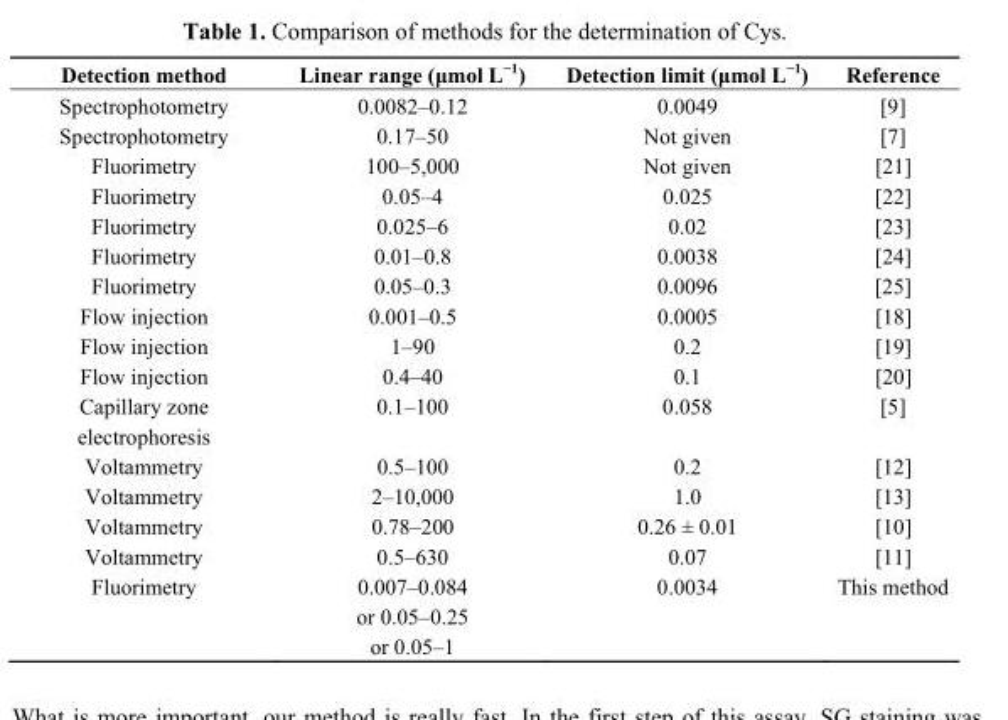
<table><thead><tr><td>Detection method</td><td>Linear range (μmol L<sup>−1</sup>)</td><td>Detection limit (μmol L<sup>−1</sup>)</td><td>Reference</td></tr></thead><tbody><tr><td>Spectrophotometry</td><td>0.0082–0.12</td><td>0.0049</td><td>[9]</td></tr><tr><td>Spectrophotometry</td><td>0.17–50</td><td>Not given</td><td>[7]</td></tr><tr><td>Fluorimetry</td><td>100–5,000</td><td>Not given</td><td>[21]</td></tr><tr><td>Fluorimetry</td><td>0.05–4</td><td>0.025</td><td>[22]</td></tr><tr><td>Fluorimetry</td><td>0.025–6</td><td>0.02</td><td>[23]</td></tr><tr><td>Fluorimetry</td><td>0.01–0.8</td><td>0.0038</td><td>[24]</td></tr><tr><td>Fluorimetry</td><td>0.05–0.3</td><td>0.0096</td><td>[25]</td></tr><tr><td>Flow injection</td><td>0.001–0.5</td><td>0.0005</td><td>[18]</td></tr><tr><td>Flow injection</td><td>1–90</td><td>0.2</td><td>[19]</td></tr><tr><td>Flow injection</td><td>0.4–40</td><td>0.1</td><td>[20]</td></tr><tr><td>Capillary zone electrophoresis</td><td>0.1–100</td><td>0.058</td><td>[5]</td></tr><tr><td>Voltammetry</td><td>0.5–100</td><td>0.2</td><td>[12]</td></tr><tr><td>Voltammetry</td><td>2–10,000</td><td>1.0</td><td>[13]</td></tr><tr><td>Voltammetry</td><td>0.78–200</td><td>0.26 ± 0.01</td><td>[10]</td></tr><tr><td>Voltammetry</td><td>0.5–630</td><td>0.07</td><td>[11]</td></tr><tr><td>Fluorimetry</td><td>0.007–0.084 or 0.05–0.25 or 0.05–1</td><td>0.0034</td><td>This method</td></tr></tbody></table>